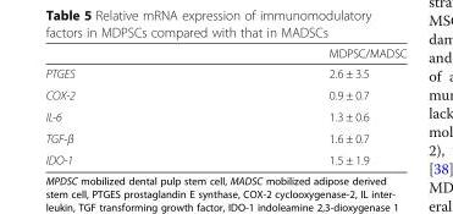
<table><thead><tr><td></td><td>MDPSC/MADSC</td></tr></thead><tbody><tr><td>PTGES</td><td>2.6 ± 3.5</td></tr><tr><td>COX-2</td><td>0.9 ± 0.7</td></tr><tr><td>IL-6</td><td>1.3 ± 0.6</td></tr><tr><td>TGF-β</td><td>1.6 ± 0.7</td></tr><tr><td>IDO-1</td><td>1.5 ± 1.9</td></tr></tbody></table>